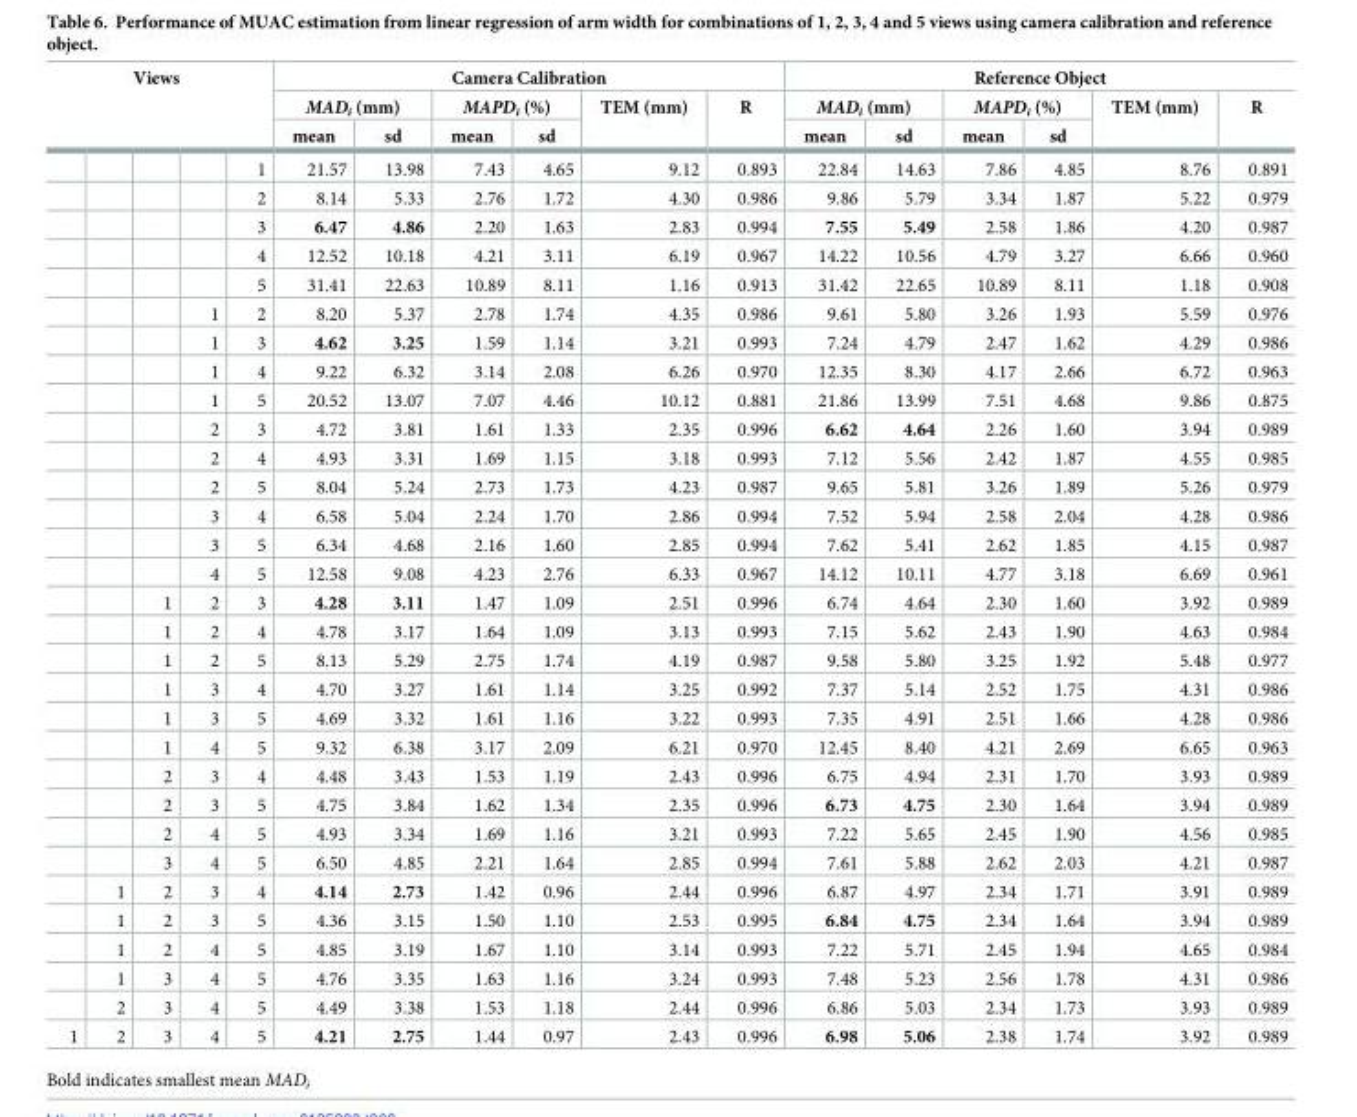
<table><thead><tr><td rowspan="3" colspan="5">Views</td><td colspan="6">Camera Calibration</td><td colspan="6">Reference Object</td></tr><tr><td colspan="2">MAD<sub>i</sub> (mm)</td><td colspan="2">MAPD<sub>i</sub> (%)</td><td rowspan="3">TEM (mm) 9.12</td><td rowspan="3">R 0.893</td><td colspan="2">MAD<sub>i</sub> (mm)</td><td colspan="2">MAPD<sub>i</sub> (%)</td><td rowspan="3">TEM (mm) 8.76</td><td rowspan="3">R 0.891</td></tr><tr><td rowspan="2">mean 21.57</td><td rowspan="2">sd 13.98</td><td rowspan="2">mean 7.43</td><td rowspan="2">sd 4.65</td><td rowspan="2">mean 22.84</td><td rowspan="2">sd 14.63</td><td rowspan="2">mean 7.86</td><td rowspan="2">sd 4.85</td></tr><tr><td></td><td></td><td></td><td></td><td>1</td></tr></thead><tbody><tr><td></td><td></td><td></td><td></td><td>2</td><td>8.14</td><td>5.33</td><td>2.76</td><td>1.72</td><td>4.30</td><td>0.986</td><td>9.86</td><td>5.79</td><td>3.34</td><td>1.87</td><td>5.22</td><td>0.979</td></tr><tr><td></td><td></td><td></td><td></td><td>3</td><td>6.47</td><td>4.86</td><td>2.20</td><td>1.63</td><td>2.83</td><td>0.994</td><td>7.55</td><td>5.49</td><td>2.58</td><td>1.86</td><td>4.20</td><td>0.987</td></tr><tr><td></td><td></td><td></td><td></td><td>4</td><td>12.52</td><td>10.18</td><td>4.21</td><td>3.11</td><td>6.19</td><td>0.967</td><td>14.22</td><td>10.56</td><td>4.79</td><td>3.27</td><td>6.66</td><td>0.960</td></tr><tr><td></td><td></td><td></td><td></td><td>5</td><td>31.41</td><td>22.63</td><td>10.89</td><td>8.11</td><td>1.16</td><td>0.913</td><td>31.42</td><td>22.65</td><td>10.89</td><td>8.11</td><td>1.18</td><td>0.908</td></tr><tr><td></td><td></td><td></td><td>1</td><td>2</td><td>8.20</td><td>5.37</td><td>2.78</td><td>1.74</td><td>4.35</td><td>0.986</td><td>9.61</td><td>5.80</td><td>3.26</td><td>1.93</td><td>5.59</td><td>0.976</td></tr><tr><td></td><td></td><td></td><td>1</td><td>3</td><td>4.62</td><td>3.25</td><td>1.59</td><td>1.14</td><td>3.21</td><td>0.993</td><td>7.24</td><td>4.79</td><td>2.47</td><td>1.62</td><td>4.29</td><td>0.986</td></tr><tr><td></td><td></td><td></td><td>1</td><td>4</td><td>9.22</td><td>6.32</td><td>3.14</td><td>2.08</td><td>6.26</td><td>0.970</td><td>12.35</td><td>8.30</td><td>4.17</td><td>2.66</td><td>6.72</td><td>0.963</td></tr><tr><td></td><td></td><td></td><td>1</td><td>5</td><td>20.52</td><td>13.07</td><td>7.07</td><td>4.46</td><td>10.12</td><td>0.881</td><td>21.86</td><td>13.99</td><td>7.51</td><td>4.68</td><td>9.86</td><td>0.875</td></tr><tr><td></td><td></td><td></td><td>2</td><td>3</td><td>4.72</td><td>3.81</td><td>1.61</td><td>1.33</td><td>2.35</td><td>0.996</td><td>6.62</td><td>4.64</td><td>2.26</td><td>1.60</td><td>3.94</td><td>0.989</td></tr><tr><td></td><td></td><td></td><td>2</td><td>4</td><td>4.93</td><td>3.31</td><td>1.69</td><td>1.15</td><td>3.18</td><td>0.993</td><td>7.12</td><td>5.56</td><td>2.42</td><td>1.87</td><td>4.55</td><td>0.985</td></tr><tr><td></td><td></td><td></td><td>2</td><td>5</td><td>8.04</td><td>5.24</td><td>2.73</td><td>1.73</td><td>4.23</td><td>0.987</td><td>9.65</td><td>5.81</td><td>3.26</td><td>1.89</td><td>5.26</td><td>0.979</td></tr><tr><td></td><td></td><td></td><td>3</td><td>4</td><td>6.58</td><td>5.04</td><td>2.24</td><td>1.70</td><td>2.86</td><td>0.994</td><td>7.52</td><td>5.94</td><td>2.58</td><td>2.04</td><td>4.28</td><td>0.986</td></tr><tr><td></td><td></td><td></td><td>3</td><td>5</td><td>6.34</td><td>4.68</td><td>2.16</td><td>1.60</td><td>2.85</td><td>0.994</td><td>7.62</td><td>5.41</td><td>2.62</td><td>1.85</td><td>4.15</td><td>0.987</td></tr><tr><td></td><td></td><td></td><td>4</td><td>5</td><td>12.58</td><td>9.08</td><td>4.23</td><td>2.76</td><td>6.33</td><td>0.967</td><td>14.12</td><td>10.11</td><td>4.77</td><td>3.18</td><td>6.69</td><td>0.961</td></tr><tr><td></td><td></td><td>1</td><td>2</td><td>3</td><td>4.28</td><td>3.11</td><td>1.47</td><td>1.09</td><td>2.51</td><td>0.996</td><td>6.74</td><td>4.64</td><td>2.30</td><td>1.60</td><td>3.92</td><td>0.989</td></tr><tr><td></td><td></td><td>1</td><td>2</td><td>4</td><td>4.78</td><td>3.17</td><td>1.64</td><td>1.09</td><td>3.13</td><td>0.993</td><td>7.15</td><td>5.62</td><td>2.43</td><td>1.90</td><td>4.63</td><td>0.984</td></tr><tr><td></td><td></td><td>1</td><td>2</td><td>5</td><td>8.13</td><td>5.29</td><td>2.75</td><td>1.74</td><td>4.19</td><td>0.987</td><td>9.58</td><td>5.80</td><td>3.25</td><td>1.92</td><td>5.48</td><td>0.977</td></tr><tr><td></td><td></td><td>1</td><td>3</td><td>4</td><td>4.70</td><td>3.27</td><td>1.61</td><td>1.14</td><td>3.25</td><td>0.992</td><td>7.37</td><td>5.14</td><td>2.52</td><td>1.75</td><td>4.31</td><td>0.986</td></tr><tr><td></td><td></td><td>1</td><td>3</td><td>5</td><td>4.69</td><td>3.32</td><td>1.61</td><td>1.16</td><td>3.22</td><td>0.993</td><td>7.35</td><td>4.91</td><td>2.51</td><td>1.66</td><td>4.28</td><td>0.986</td></tr><tr><td></td><td></td><td>1</td><td>4</td><td>5</td><td>9.32</td><td>6.38</td><td>3.17</td><td>2.09</td><td>6.21</td><td>0.970</td><td>12.45</td><td>8.40</td><td>4.21</td><td>2.69</td><td>6.65</td><td>0.963</td></tr><tr><td></td><td></td><td>2</td><td>3</td><td>4</td><td>4.48</td><td>3.43</td><td>1.53</td><td>1.19</td><td>2.43</td><td>0.996</td><td>6.75</td><td>4.94</td><td>2.31</td><td>1.70</td><td>3.93</td><td>0.989</td></tr><tr><td></td><td></td><td>2</td><td>3</td><td>5</td><td>4.75</td><td>3.84</td><td>1.62</td><td>1.34</td><td>2.35</td><td>0.996</td><td>6.73</td><td>4.75</td><td>2.30</td><td>1.64</td><td>3.94</td><td>0.989</td></tr><tr><td></td><td></td><td>2</td><td>4</td><td>5</td><td>4.93</td><td>3.34</td><td>1.69</td><td>1.16</td><td>3.21</td><td>0.993</td><td>7.22</td><td>5.65</td><td>2.45</td><td>1.90</td><td>4.56</td><td>0.985</td></tr><tr><td></td><td></td><td>3</td><td>4</td><td>5</td><td>6.50</td><td>4.85</td><td>2.21</td><td>1.64</td><td>2.85</td><td>0.994</td><td>7.61</td><td>5.88</td><td>2.62</td><td>2.03</td><td>4.21</td><td>0.987</td></tr><tr><td></td><td>1</td><td>2</td><td>3</td><td>4</td><td>4.14</td><td>2.73</td><td>1.42</td><td>0.96</td><td>2.44</td><td>0.996</td><td>6.87</td><td>4.97</td><td>2.34</td><td>1.71</td><td>3.91</td><td>0.989</td></tr><tr><td></td><td>1</td><td>2</td><td>3</td><td>5</td><td>4.36</td><td>3.15</td><td>1.50</td><td>1.10</td><td>2.53</td><td>0.995</td><td>6.84</td><td>4.75</td><td>2.34</td><td>1.64</td><td>3.94</td><td>0.989</td></tr><tr><td></td><td>1</td><td>2</td><td>4</td><td>5</td><td>4.85</td><td>3.19</td><td>1.67</td><td>1.10</td><td>3.14</td><td>0.993</td><td>7.22</td><td>5.71</td><td>2.45</td><td>1.94</td><td>4.65</td><td>0.984</td></tr><tr><td></td><td>1</td><td>3</td><td>4</td><td>5</td><td>4.76</td><td>3.35</td><td>1.63</td><td>1.16</td><td>3.24</td><td>0.993</td><td>7.48</td><td>5.23</td><td>2.56</td><td>1.78</td><td>4.31</td><td>0.986</td></tr><tr><td></td><td>2</td><td>3</td><td>4</td><td>5</td><td>4.49</td><td>3.38</td><td>1.53</td><td>1.18</td><td>2.44</td><td>0.996</td><td>6.86</td><td>5.03</td><td>2.34</td><td>1.73</td><td>3.93</td><td>0.989</td></tr><tr><td>1</td><td>2</td><td>3</td><td>4</td><td>5</td><td>4.21</td><td>2.75</td><td>1.44</td><td>0.97</td><td>2.43</td><td>0.996</td><td>6.98</td><td>5.06</td><td>2.38</td><td>1.74</td><td>3.92</td><td>0.989</td></tr></tbody></table>